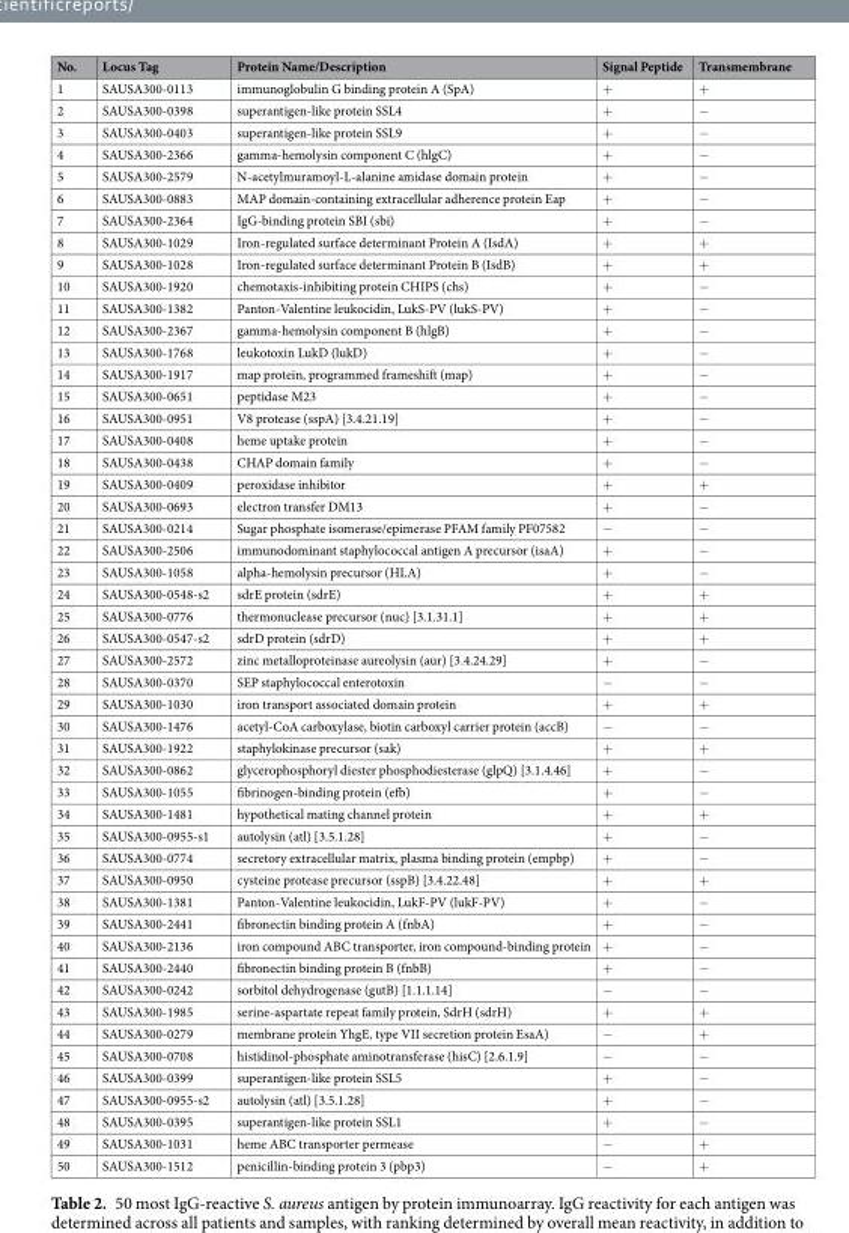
<table><thead><tr><td>No.</td><td>Locus Tag</td><td>Protein Name/Description</td><td>Signal Peptide</td><td>Transmembrane</td></tr></thead><tbody><tr><td>1</td><td>SAUSA300-0113</td><td>immunoglobulin G binding protein A (SpA)</td><td>+</td><td>+</td></tr><tr><td>2</td><td>SAUSA300-0398</td><td>superantigen-like protein SSL4</td><td>+</td><td>−</td></tr><tr><td>3</td><td>SAUSA300-0403</td><td>superantigen-like protein SSL9</td><td>+</td><td>−</td></tr><tr><td>4</td><td>SAUSA300-2366</td><td>gamma-hemolysin component C (hlgC)</td><td>+</td><td>−</td></tr><tr><td>5</td><td>SAUSA300-2579</td><td>N-acetylmuramoyl-L-alanine amidase domain protein</td><td>+</td><td>−</td></tr><tr><td>6</td><td>SAUSA300-0883</td><td>MAP domain-containing extracellular adherence protein Eap</td><td>+</td><td>−</td></tr><tr><td>7</td><td>SAUSA300-2364</td><td>IgG-binding protein SBI (sbi)</td><td>+</td><td>−</td></tr><tr><td>8</td><td>SAUSA300-1029</td><td>Iron-regulated surface determinant Protein A (IsdA)</td><td>+</td><td>+</td></tr><tr><td>9</td><td>SAUSA300-1028</td><td>Iron-regulated surface determinant Protein B (IsdB)</td><td>+</td><td>+</td></tr><tr><td>10</td><td>SAUSA300-1920</td><td>chemotaxis-inhibiting protein CHIPS (chs)</td><td>+</td><td>−</td></tr><tr><td>11</td><td>SAUSA300-1382</td><td>Panton-Valentine leukocidin, LukS-PV (lukS-PV)</td><td>+</td><td>−</td></tr><tr><td>12</td><td>SAUSA300-2367</td><td>gamma-hemolysin component B (hlgB)</td><td>+</td><td>−</td></tr><tr><td>13</td><td>SAUSA300-1768</td><td>leukotoxin LukD (lukD)</td><td>+</td><td>−</td></tr><tr><td>14</td><td>SAUSA300-1917</td><td>map protein, programmed frameshift (map)</td><td>+</td><td>−</td></tr><tr><td>15</td><td>SAUSA300-0651</td><td>peptidase M23</td><td>+</td><td>−</td></tr><tr><td>16</td><td>SAUSA300-0951</td><td>V8 protease (sspA) [3.4.21.19]</td><td>+</td><td>−</td></tr><tr><td>17</td><td>SAUSA300-0408</td><td>heme uptake protein</td><td>+</td><td>−</td></tr><tr><td>18</td><td>SAUSA300-0438</td><td>CHAP domain family</td><td>+</td><td>−</td></tr><tr><td>19</td><td>SAUSA300-0409</td><td>peroxidase inhibitor</td><td>+</td><td>+</td></tr><tr><td>20</td><td>SAUSA300-0693</td><td>electron transfer DM13</td><td>+</td><td>−</td></tr><tr><td>21</td><td>SAUSA300-0214</td><td>Sugar phosphate isomerase/epimerase PFAM family PF07582</td><td>−</td><td>−</td></tr><tr><td>22</td><td>SAUSA300-2506</td><td>immunodominant staphylococcal antigen A precursor (isaA)</td><td>+</td><td>−</td></tr><tr><td>23</td><td>SAUSA300-1058</td><td>alpha-hemolysin precursor (HLA)</td><td>+</td><td>−</td></tr><tr><td>24</td><td>SAUSA300-0548-s2</td><td>sdrE protein (sdrE)</td><td>+</td><td>+</td></tr><tr><td>25</td><td>SAUSA300-0776</td><td>thermonuclease precursor (nuc) [3.1.31.1]</td><td>+</td><td>+</td></tr><tr><td>26</td><td>SAUSA300-0547-s2</td><td>sdrD protein (sdrD)</td><td>+</td><td>+</td></tr><tr><td>27</td><td>SAUSA300-2572</td><td>zinc metalloproteinase aureolysin (aur) [3.4.24.29]</td><td>+</td><td>−</td></tr><tr><td>28</td><td>SAUSA300-0370</td><td>SEP staphylococcal enterotoxin</td><td>−</td><td>−</td></tr><tr><td>29</td><td>SAUSA300-1030</td><td>iron transport associated domain protein</td><td>+</td><td>+</td></tr><tr><td>30</td><td>SAUSA300-1476</td><td>acetyl-CoA carboxylase, biotin carboxyl carrier protein (accB)</td><td>−</td><td>−</td></tr><tr><td>31</td><td>SAUSA300-1922</td><td>staphylokinase precursor (sak)</td><td>+</td><td>+</td></tr><tr><td>32</td><td>SAUSA300-0862</td><td>glycerophosphoryl diester phosphodiesterase (glpQ) [3.1.4.46]</td><td>+</td><td>−</td></tr><tr><td>33</td><td>SAUSA300-1055</td><td>fibrinogen-binding protein (efb)</td><td>+</td><td>−</td></tr><tr><td>34</td><td>SAUSA300-1481</td><td>hypothetical mating channel protein</td><td>+</td><td>+</td></tr><tr><td>35</td><td>SAUSA300-0955-s1</td><td>autolysin (atl) [3.5.1.28]</td><td>+</td><td>−</td></tr><tr><td>36</td><td>SAUSA300-0774</td><td>secretory extracellular matrix, plasma binding protein (empbp)</td><td>+</td><td>−</td></tr><tr><td>37</td><td>SAUSA300-0950</td><td>cysteine protease precursor (sspB) [3.4.22.48]</td><td>+</td><td>+</td></tr><tr><td>38</td><td>SAUSA300-1381</td><td>Panton-Valentine leukocidin, LukF-PV (lukF-PV)</td><td>+</td><td>−</td></tr><tr><td>39</td><td>SAUSA300-2441</td><td>fibronectin binding protein A (fnbA)</td><td>+</td><td>−</td></tr><tr><td>40</td><td>SAUSA300-2136</td><td>iron compound ABC transporter, iron compound-binding protein</td><td>+</td><td>−</td></tr><tr><td>41</td><td>SAUSA300-2440</td><td>fibronectin binding protein B (fnbB)</td><td>+</td><td>−</td></tr><tr><td>42</td><td>SAUSA300-0242</td><td>sorbitol dehydrogenase (gutB) [1.1.1.14]</td><td>−</td><td>−</td></tr><tr><td>43</td><td>SAUSA300-1985</td><td>serine-aspartate repeat family protein, SdrH (sdrH)</td><td>+</td><td>+</td></tr><tr><td>44</td><td>SAUSA300-0279</td><td>membrane protein YhgE, type VII secretion protein EsaA)</td><td>−</td><td>+</td></tr><tr><td>45</td><td>SAUSA300-0708</td><td>histidinol-phosphate aminotransferase (hisC) [2.6.1.9]</td><td>−</td><td>−</td></tr><tr><td>46</td><td>SAUSA300-0399</td><td>superantigen-like protein SSL5</td><td>+</td><td>−</td></tr><tr><td>47</td><td>SAUSA300-0955-s2</td><td>autolysin (atl) [3.5.1.28]</td><td>+</td><td>−</td></tr><tr><td>48</td><td>SAUSA300-0395</td><td>superantigen-like protein SSL1</td><td>+</td><td>−</td></tr><tr><td>49</td><td>SAUSA300-1031</td><td>heme ABC transporter permease</td><td>−</td><td>+</td></tr><tr><td>50</td><td>SAUSA300-1512</td><td>penicillin-binding protein 3 (pbp3)</td><td>−</td><td>+</td></tr></tbody></table>